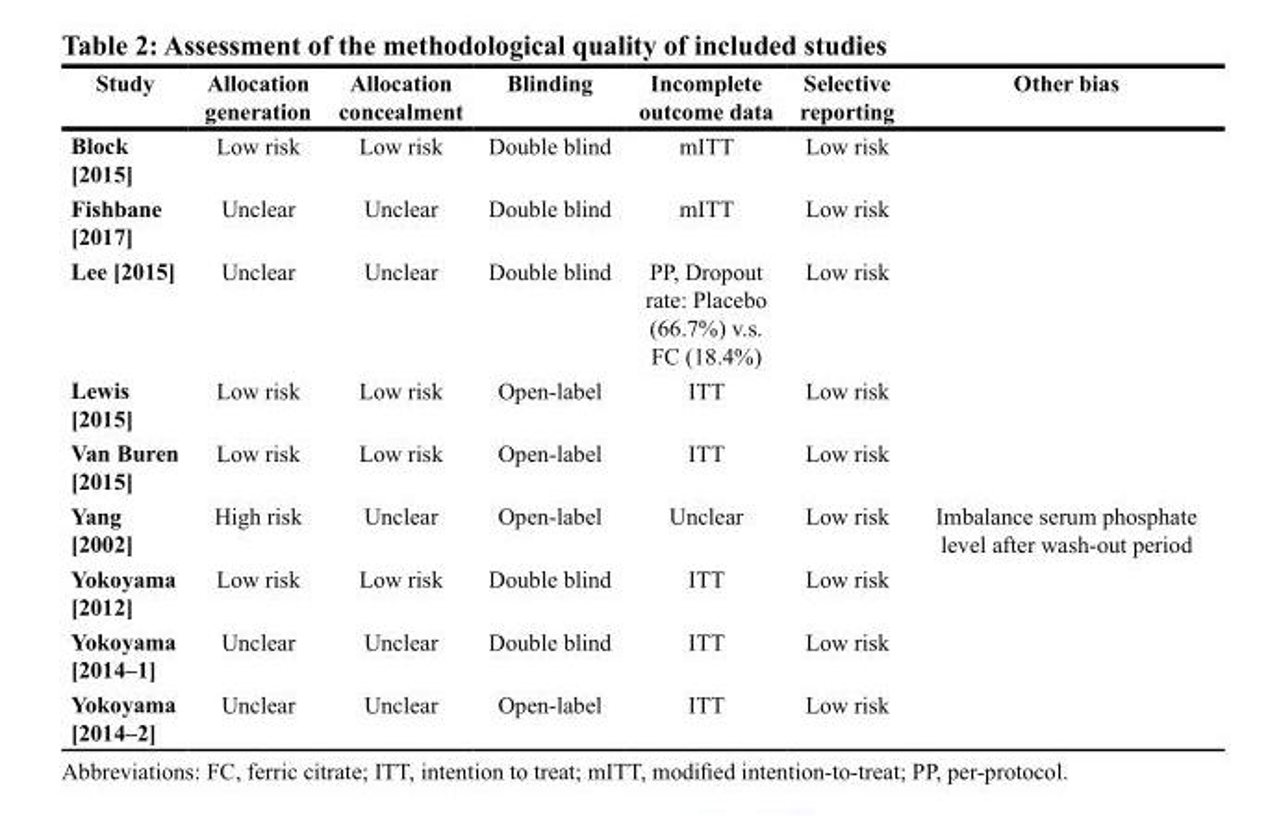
<table><thead><tr><td>Study</td><td>Allocation generation</td><td>Allocation concealment</td><td>Blinding</td><td>Incomplete outcome data</td><td>Selective reporting</td><td>Other bias</td></tr></thead><tbody><tr><td>Block [2015]</td><td>Low risk</td><td>Low risk</td><td>Double blind</td><td>mITT</td><td>Low risk</td><td></td></tr><tr><td>Fishbane [2017]</td><td>Unclear</td><td>Unclear</td><td>Double blind</td><td>mITT</td><td>Low risk</td><td></td></tr><tr><td>Lee [2015]</td><td>Unclear</td><td>Unclear</td><td>Double blind</td><td>PP, Dropout rate: Placebo (66.7%) v.s. FC (18.4%)</td><td>Low risk</td><td></td></tr><tr><td>Lewis [2015]</td><td>Low risk</td><td>Low risk</td><td>Open-label</td><td>ITT</td><td>Low risk</td><td></td></tr><tr><td>Van Buren [2015]</td><td>Low risk</td><td>Low risk</td><td>Open-label</td><td>ITT</td><td>Low risk</td><td></td></tr><tr><td>Yang [2002]</td><td>High risk</td><td>Unclear</td><td>Open-label</td><td>Unclear</td><td>Low risk</td><td>Imbalance serum phosphate level after wash-out period</td></tr><tr><td>Yokoyama [2012]</td><td>Low risk</td><td>Low risk</td><td>Double blind</td><td>ITT</td><td>Low risk</td><td></td></tr><tr><td>Yokoyama [2014–1]</td><td>Unclear</td><td>Unclear</td><td>Double blind</td><td>ITT</td><td>Low risk</td><td></td></tr><tr><td>Yokoyama [2014–2]</td><td>Unclear</td><td>Unclear</td><td>Open-label</td><td>ITT</td><td>Low risk</td><td></td></tr></tbody></table>